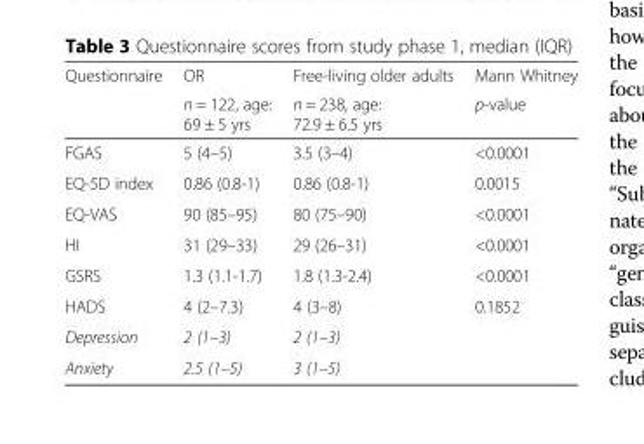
<table><thead><tr><td rowspan="2">Questionnaire</td><td rowspan="2">OR n = 122, age: 69 ± 5 yrs</td><td rowspan="2">Free-living older adults n = 238, age: 72.9 ± 6.5 yrs</td><td rowspan="2">Mann Whitney p-value</td></tr><tr></tr></thead><tbody><tr><td>FGAS</td><td>5 (4–5)</td><td>3.5 (3–4)</td><td>&lt;0.0001</td></tr><tr><td>EQ-5D index</td><td>0.86 (0.8-1)</td><td>0.86 (0.8-1)</td><td>0.0015</td></tr><tr><td>EQ-VAS</td><td>90 (85–95)</td><td>80 (75–90)</td><td>&lt;0.0001</td></tr><tr><td>HI</td><td>31 (29–33)</td><td>29 (26–31)</td><td>&lt;0.0001</td></tr><tr><td>GSRS</td><td>1.3 (1.1-1.7)</td><td>1.8 (1.3-2.4)</td><td>&lt;0.0001</td></tr><tr><td>HADS</td><td>4 (2–7.3)</td><td>4 (3–8)</td><td>0.1852</td></tr><tr><td>Depression</td><td>2 (1–3)</td><td>2 (1–3)</td><td></td></tr><tr><td>Anxiety</td><td>2.5 (1–5)</td><td>3 (1–5)</td><td></td></tr></tbody></table>